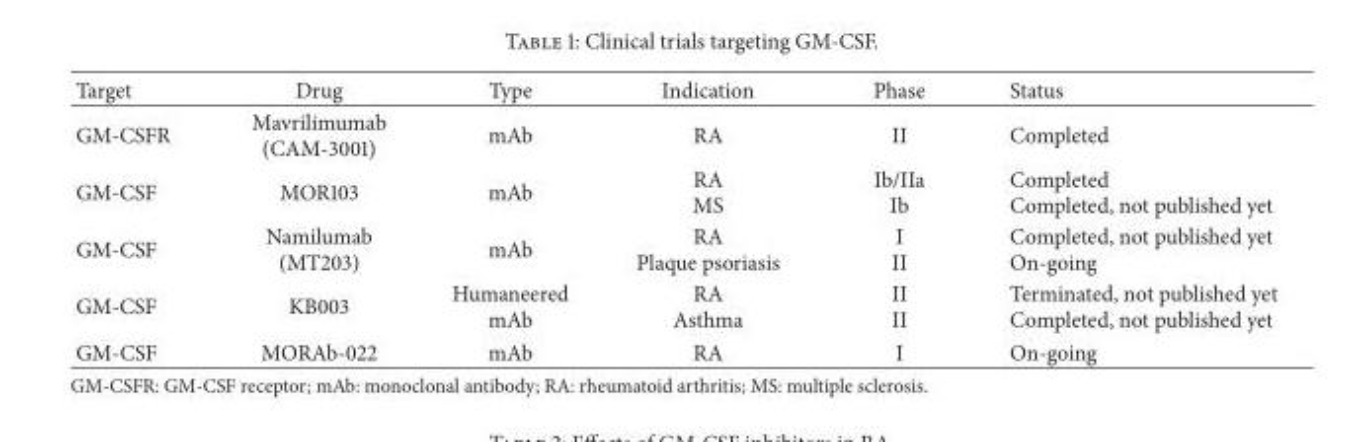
<table><thead><tr><td>Target</td><td>Drug</td><td>Type</td><td>Indication</td><td>Phase</td><td>Status</td></tr></thead><tbody><tr><td>GM-CSFR</td><td>Mavrilimumab (CAM-3001)</td><td>mAb</td><td>RA</td><td>II</td><td>Completed</td></tr><tr><td>GM-CSF</td><td>MOR103</td><td>mAb</td><td>RA MS</td><td>Ib/IIa Ib</td><td>Completed Completed, not published yet</td></tr><tr><td>GM-CSF</td><td>Namilumab (MT203)</td><td>mAb</td><td>RA Plaque psoriasis</td><td>I II</td><td>Completed, not published yet On-going</td></tr><tr><td>GM-CSF</td><td>KB003</td><td>Humaneered mAb</td><td>RA Asthma</td><td>II II</td><td>Terminated, not published yet Completed, not published yet</td></tr><tr><td>GM-CSF</td><td>MORAb-022</td><td>mAb</td><td>RA</td><td>I</td><td>On-going</td></tr></tbody></table>